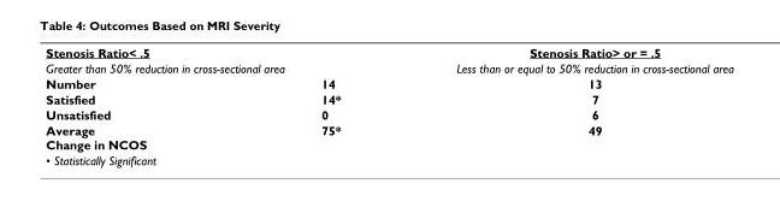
<table><tbody><tr><td colspan="2">Stenosis Ratio&lt; .5</td><td>Stenosis Ratio&gt; or = .5</td></tr><tr><td colspan="2">Greater than 50% reduction in cross-sectional area</td><td>Less than or equal to 50% reduction in cross-sectional area</td></tr><tr><td>Number</td><td>14</td><td>13</td></tr><tr><td>Satisfied</td><td>14*</td><td>7</td></tr><tr><td>Unsatisfied</td><td>0</td><td>6</td></tr><tr><td>Average Change in NCOS</td><td>75*</td><td>49</td></tr><tr><td colspan="3">• Statistically Significant</td></tr></tbody></table>